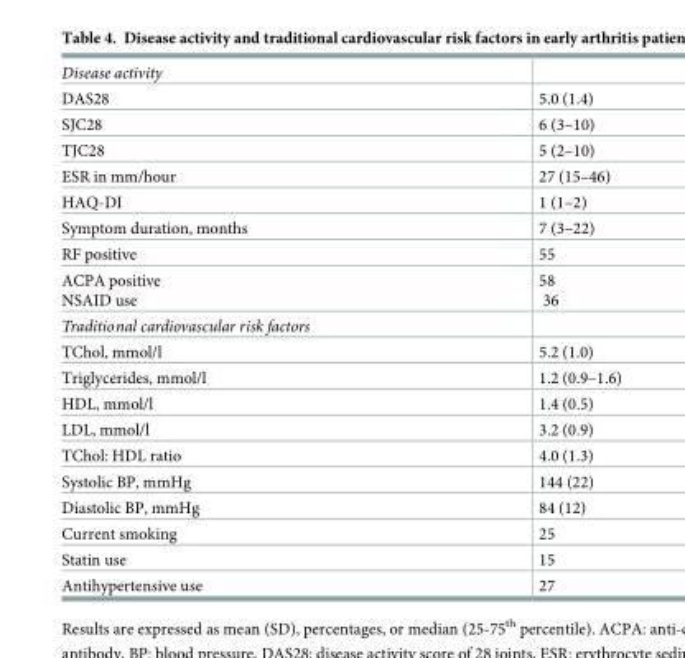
<table><tbody><tr><td colspan="2">Disease activity</td></tr><tr><td>DAS28</td><td>5.0 (1.4)</td></tr><tr><td>SJC28</td><td>6 (3–10)</td></tr><tr><td>TJC28</td><td>5 (2–10)</td></tr><tr><td>ESR in mm/hour</td><td>27 (15–46)</td></tr><tr><td>HAQ-DI</td><td>1 (1–2)</td></tr><tr><td>Symptom duration, months</td><td>7 (3–22)</td></tr><tr><td>RF positive</td><td>55</td></tr><tr><td>ACPA positive NSAID use</td><td>58 36</td></tr><tr><td colspan="2">Traditional cardiovascular risk factors</td></tr><tr><td>TChol, mmol/l</td><td>5.2 (1.0)</td></tr><tr><td>Triglycerides, mmol/l</td><td>1.2 (0.9–1.6)</td></tr><tr><td>HDL, mmol/l</td><td>1.4 (0.5)</td></tr><tr><td>LDL, mmol/l</td><td>3.2 (0.9)</td></tr><tr><td>TChol: HDL ratio</td><td>4.0 (1.3)</td></tr><tr><td>Systolic BP, mmHg</td><td>144 (22)</td></tr><tr><td>Diastolic BP, mmHg</td><td>84 (12)</td></tr><tr><td>Current smoking</td><td>25</td></tr><tr><td>Statin use</td><td>15</td></tr><tr><td>Antihypertensive use</td><td>27</td></tr></tbody></table>